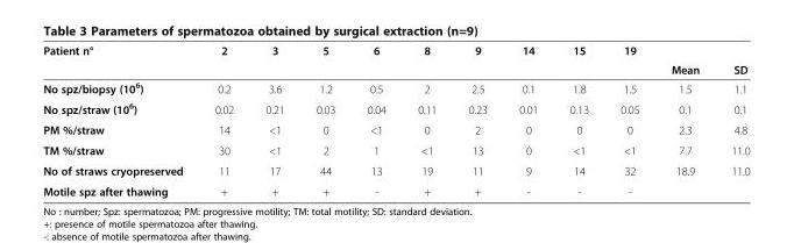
<table><thead><tr><td rowspan="2">Patient n°</td><td rowspan="2">2</td><td rowspan="2">3</td><td rowspan="2">5</td><td rowspan="2">6</td><td rowspan="2">8</td><td rowspan="2">9</td><td rowspan="2">14</td><td rowspan="2">15</td><td rowspan="2">19</td><td rowspan="2">Mean</td><td rowspan="2">SD</td></tr><tr></tr></thead><tbody><tr><td>No spz/biopsy (10<sup>6</sup>)</td><td>0.2</td><td>3.6</td><td>1.2</td><td>0.5</td><td>2</td><td>2.5</td><td>0.1</td><td>1.8</td><td>1.5</td><td>1.5</td><td>1.1</td></tr><tr><td>No spz/straw (10<sup>6</sup>)</td><td>0.02</td><td>0.21</td><td>0.03</td><td>0.04</td><td>0.11</td><td>0.23</td><td>0.01</td><td>0.13</td><td>0.05</td><td>0.1</td><td>0.1</td></tr><tr><td>PM %/straw</td><td>14</td><td>&lt;1</td><td>0</td><td>&lt;1</td><td>0</td><td>2</td><td>0</td><td>0</td><td>0</td><td>2.3</td><td>4.8</td></tr><tr><td>TM %/straw</td><td>30</td><td>&lt;1</td><td>2</td><td>1</td><td>&lt;1</td><td>13</td><td>0</td><td>&lt;1</td><td>&lt;1</td><td>7.7</td><td>11.0</td></tr><tr><td>No of straws cryopreserved</td><td>11</td><td>17</td><td>44</td><td>13</td><td>19</td><td>11</td><td>9</td><td>14</td><td>32</td><td>18.9</td><td>11.0</td></tr><tr><td>Motile spz after thawing</td><td>+</td><td>+</td><td>+</td><td>-</td><td>+</td><td>+</td><td>-</td><td>-</td><td>-</td><td></td><td></td></tr></tbody></table>